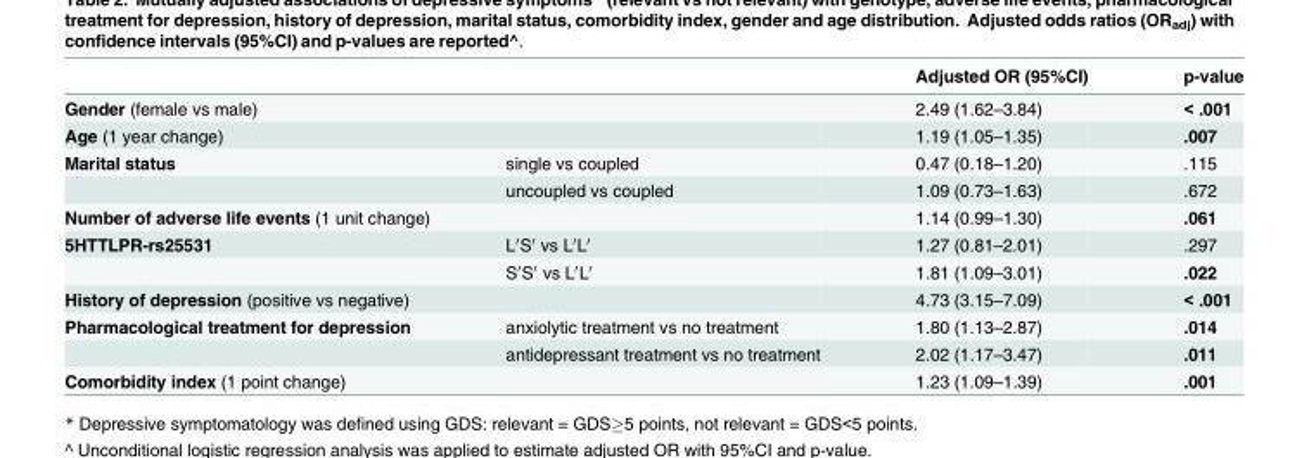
<table><thead><tr><td></td><td></td><td>Adjusted OR (95%CI)</td><td>p-value</td></tr></thead><tbody><tr><td colspan="2">Gender (female vs male)</td><td>2.49 (1.62–3.84)</td><td>&lt; .001</td></tr><tr><td colspan="2">Age (1 year change)</td><td>1.19 (1.05–1.35)</td><td>.007</td></tr><tr><td rowspan="2">Marital status</td><td>single vs coupled</td><td>0.47 (0.18–1.20)</td><td>.115</td></tr><tr><td>uncoupled vs coupled</td><td>1.09 (0.73–1.63)</td><td>.672</td></tr><tr><td colspan="2">Number of adverse life events (1 unit change)</td><td>1.14 (0.99–1.30)</td><td>.061</td></tr><tr><td rowspan="2">5HTTLPR-rs25531</td><td>L′S′ vs L′L′</td><td>1.27 (0.81–2.01)</td><td>.297</td></tr><tr><td>S′S′ vs L′L′</td><td>1.81 (1.09–3.01)</td><td>.022</td></tr><tr><td colspan="2">History of depression (positive vs negative)</td><td>4.73 (3.15–7.09)</td><td>&lt; .001</td></tr><tr><td rowspan="2">Pharmacological treatment for depression</td><td>anxiolytic treatment vs no treatment</td><td>1.80 (1.13–2.87)</td><td>.014</td></tr><tr><td>antidepressant treatment vs no treatment</td><td>2.02 (1.17–3.47)</td><td>.011</td></tr><tr><td colspan="2">Comorbidity index (1 point change)</td><td>1.23 (1.09–1.39)</td><td>.001</td></tr></tbody></table>